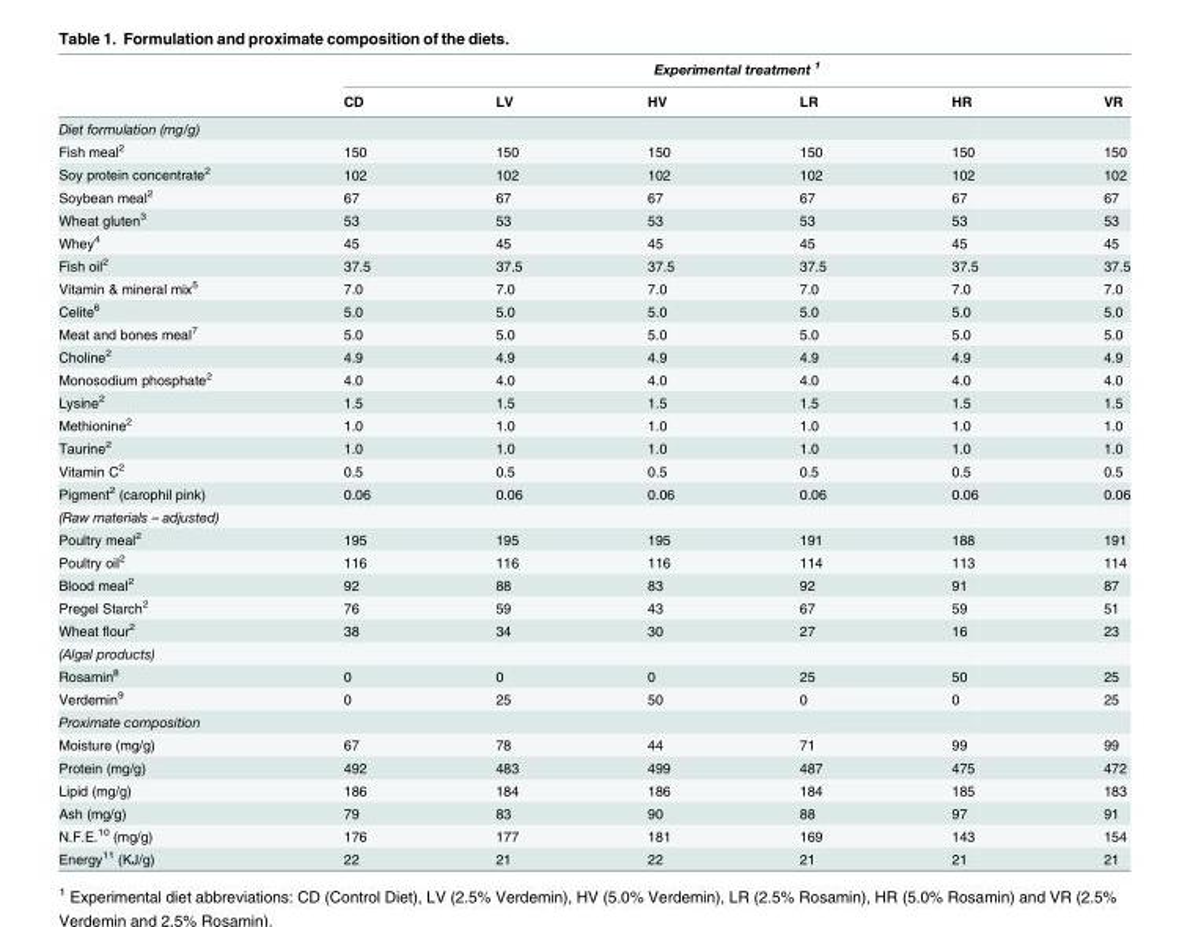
<table><thead><tr><td rowspan="2"></td><td colspan="6">Experimental treatment <sup>1</sup></td></tr><tr><td>CD</td><td>LV</td><td>HV</td><td>LR</td><td>HR</td><td>VR</td></tr></thead><tbody><tr><td colspan="7">Diet formulation (mg/g)</td></tr><tr><td>Fish meal<sup>2</sup></td><td>150</td><td>150</td><td>150</td><td>150</td><td>150</td><td>150</td></tr><tr><td>Soy protein concentrate<sup>2</sup></td><td>102</td><td>102</td><td>102</td><td>102</td><td>102</td><td>102</td></tr><tr><td>Soybean meal<sup>2</sup></td><td>67</td><td>67</td><td>67</td><td>67</td><td>67</td><td>67</td></tr><tr><td>Wheat gluten<sup>3</sup></td><td>53</td><td>53</td><td>53</td><td>53</td><td>53</td><td>53</td></tr><tr><td>Whey<sup>4</sup></td><td>45</td><td>45</td><td>45</td><td>45</td><td>45</td><td>45</td></tr><tr><td>Fish oil<sup>2</sup></td><td>37.5</td><td>37.5</td><td>37.5</td><td>37.5</td><td>37.5</td><td>37.5</td></tr><tr><td>Vitamin &amp; mineral mix<sup>5</sup></td><td>7.0</td><td>7.0</td><td>7.0</td><td>7.0</td><td>7.0</td><td>7.0</td></tr><tr><td>Celite<sup>6</sup></td><td>5.0</td><td>5.0</td><td>5.0</td><td>5.0</td><td>5.0</td><td>5.0</td></tr><tr><td>Meat and bones meal<sup>7</sup></td><td>5.0</td><td>5.0</td><td>5.0</td><td>5.0</td><td>5.0</td><td>5.0</td></tr><tr><td>Choline<sup>2</sup></td><td>4.9</td><td>4.9</td><td>4.9</td><td>4.9</td><td>4.9</td><td>4.9</td></tr><tr><td>Monosodium phosphate<sup>2</sup></td><td>4.0</td><td>4.0</td><td>4.0</td><td>4.0</td><td>4.0</td><td>4.0</td></tr><tr><td>Lysine<sup>2</sup></td><td>1.5</td><td>1.5</td><td>1.5</td><td>1.5</td><td>1.5</td><td>1.5</td></tr><tr><td>Methionine<sup>2</sup></td><td>1.0</td><td>1.0</td><td>1.0</td><td>1.0</td><td>1.0</td><td>1.0</td></tr><tr><td>Taurine<sup>2</sup></td><td>1.0</td><td>1.0</td><td>1.0</td><td>1.0</td><td>1.0</td><td>1.0</td></tr><tr><td>Vitamin C<sup>2</sup></td><td>0.5</td><td>0.5</td><td>0.5</td><td>0.5</td><td>0.5</td><td>0.5</td></tr><tr><td>Pigment<sup>2</sup> (carophil pink)</td><td>0.06</td><td>0.06</td><td>0.06</td><td>0.06</td><td>0.06</td><td>0.06</td></tr><tr><td colspan="7">(Raw materials – adjusted)</td></tr><tr><td>Poultry meal<sup>2</sup></td><td>195</td><td>195</td><td>195</td><td>191</td><td>188</td><td>191</td></tr><tr><td>Poultry oil<sup>2</sup></td><td>116</td><td>116</td><td>116</td><td>114</td><td>113</td><td>114</td></tr><tr><td>Blood meal<sup>2</sup></td><td>92</td><td>88</td><td>83</td><td>92</td><td>91</td><td>87</td></tr><tr><td>Pregel Starch<sup>2</sup></td><td>76</td><td>59</td><td>43</td><td>67</td><td>59</td><td>51</td></tr><tr><td>Wheat flour<sup>2</sup></td><td>38</td><td>34</td><td>30</td><td>27</td><td>16</td><td>23</td></tr><tr><td colspan="7">(Algal products)</td></tr><tr><td>Rosamin<sup>8</sup></td><td>0</td><td>0</td><td>0</td><td>25</td><td>50</td><td>25</td></tr><tr><td>Verdemin<sup>9</sup></td><td>0</td><td>25</td><td>50</td><td>0</td><td>0</td><td>25</td></tr><tr><td colspan="7">Proximate composition</td></tr><tr><td>Moisture (mg/g)</td><td>67</td><td>78</td><td>44</td><td>71</td><td>99</td><td>99</td></tr><tr><td>Protein (mg/g)</td><td>492</td><td>483</td><td>499</td><td>487</td><td>475</td><td>472</td></tr><tr><td>Lipid (mg/g)</td><td>186</td><td>184</td><td>186</td><td>184</td><td>185</td><td>183</td></tr><tr><td>Ash (mg/g)</td><td>79</td><td>83</td><td>90</td><td>88</td><td>97</td><td>91</td></tr><tr><td>N.F.E.<sup>10</sup> (mg/g)</td><td>176</td><td>177</td><td>181</td><td>169</td><td>143</td><td>154</td></tr><tr><td>Energy<sup>11</sup> (KJ/g)</td><td>22</td><td>21</td><td>22</td><td>21</td><td>21</td><td>21</td></tr></tbody></table>